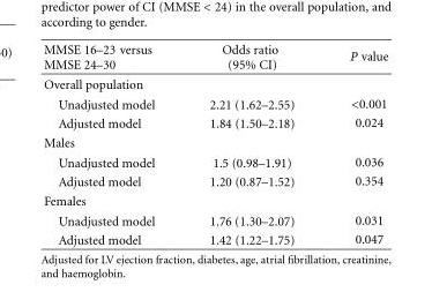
<table><thead><tr><td>MMSE 16–23 versus MMSE 24–30</td><td>Odds ratio (95% CI)</td><td>P value</td></tr></thead><tbody><tr><td colspan="3">Overall population</td></tr><tr><td>Unadjusted model</td><td>2.21 (1.62–2.55)</td><td>&lt;0.001</td></tr><tr><td>Adjusted model</td><td>1.84 (1.50–2.18)</td><td>0.024</td></tr><tr><td colspan="3">Males</td></tr><tr><td>Unadjusted model</td><td>1.5 (0.98–1.91)</td><td>0.036</td></tr><tr><td>Adjusted model</td><td>1.20 (0.87–1.52)</td><td>0.354</td></tr><tr><td colspan="3">Females</td></tr><tr><td>Unadjusted model</td><td>1.76 (1.30–2.07)</td><td>0.031</td></tr><tr><td>Adjusted model</td><td>1.42 (1.22–1.75)</td><td>0.047</td></tr></tbody></table>